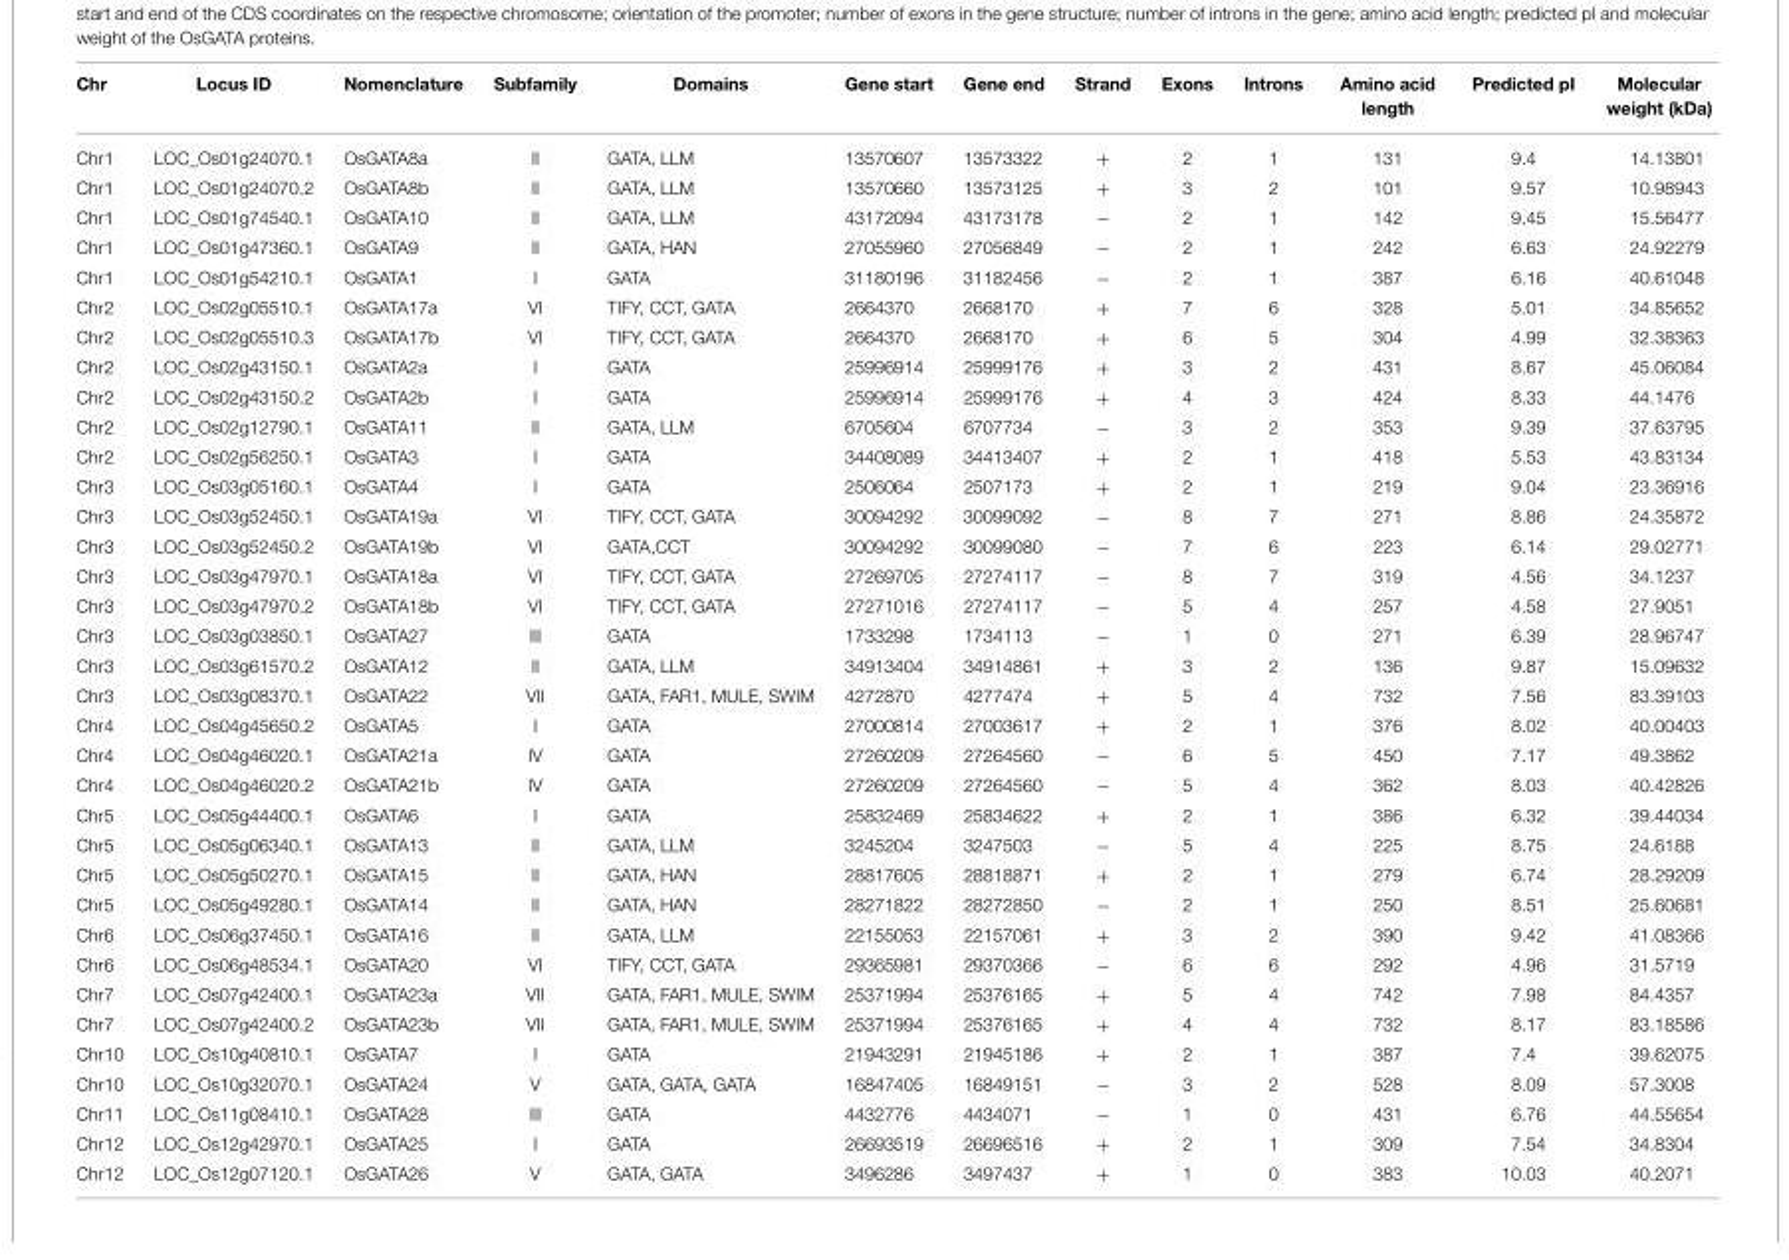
<table><thead><tr><td>Chr</td><td>Locus ID</td><td>Nomenclature</td><td>Subfamily</td><td>Domains</td><td>Gene start</td><td>Gene end</td><td>Strand</td><td>Exons</td><td>Introns</td><td>Amino acid length</td><td>Predicted pI</td><td>Molecular weight (kDa)</td></tr></thead><tbody><tr><td>Chr1</td><td>LOC_Os01g24070.1</td><td>OsGATA8a</td><td>II</td><td>GATA, LLM</td><td>13570607</td><td>13573322</td><td>+</td><td>2</td><td>1</td><td>131</td><td>9.4</td><td>14.13801</td></tr><tr><td>Chr1</td><td>LOC_Os01g24070.2</td><td>OsGATA8b</td><td>II</td><td>GATA, LLM</td><td>13570660</td><td>13573125</td><td>+</td><td>3</td><td>2</td><td>101</td><td>9.57</td><td>10.98943</td></tr><tr><td>Chr1</td><td>LOC_Os01g74540.1</td><td>OsGATA10</td><td>II</td><td>GATA, LLM</td><td>43172094</td><td>43173178</td><td>−</td><td>2</td><td>1</td><td>142</td><td>9.45</td><td>15.56477</td></tr><tr><td>Chr1</td><td>LOC_Os01g47360.1</td><td>OsGATA9</td><td>II</td><td>GATA, HAN</td><td>27055960</td><td>27056849</td><td>−</td><td>2</td><td>1</td><td>242</td><td>6.63</td><td>24.92279</td></tr><tr><td>Chr1</td><td>LOC_Os01g54210.1</td><td>OsGATA1</td><td>I</td><td>GATA</td><td>31180196</td><td>31182456</td><td>−</td><td>2</td><td>1</td><td>387</td><td>6.16</td><td>40.61048</td></tr><tr><td>Chr2</td><td>LOC_Os02g05510.1</td><td>OsGATA17a</td><td>VI</td><td>TIFY, CCT, GATA</td><td>2664370</td><td>2668170</td><td>+</td><td>7</td><td>6</td><td>328</td><td>5.01</td><td>34.85652</td></tr><tr><td>Chr2</td><td>LOC_Os02g05510.3</td><td>OsGATA17b</td><td>VI</td><td>TIFY, CCT, GATA</td><td>2664370</td><td>2668170</td><td>+</td><td>6</td><td>5</td><td>304</td><td>4.99</td><td>32.38363</td></tr><tr><td>Chr2</td><td>LOC_Os02g43150.1</td><td>OsGATA2a</td><td>I</td><td>GATA</td><td>25996914</td><td>25999176</td><td>+</td><td>3</td><td>2</td><td>431</td><td>8.67</td><td>45.06084</td></tr><tr><td>Chr2</td><td>LOC_Os02g43150.2</td><td>OsGATA2b</td><td>I</td><td>GATA</td><td>25996914</td><td>25999176</td><td>+</td><td>4</td><td>3</td><td>424</td><td>8.33</td><td>44.1476</td></tr><tr><td>Chr2</td><td>LOC_Os02g12790.1</td><td>OsGATA11</td><td>II</td><td>GATA, LLM</td><td>6705604</td><td>6707734</td><td>−</td><td>3</td><td>2</td><td>353</td><td>9.39</td><td>37.63795</td></tr><tr><td>Chr2</td><td>LOC_Os02g56250.1</td><td>OsGATA3</td><td>I</td><td>GATA</td><td>34408089</td><td>34413407</td><td>+</td><td>2</td><td>1</td><td>418</td><td>5.53</td><td>43.83134</td></tr><tr><td>Chr3</td><td>LOC_Os03g05160.1</td><td>OsGATA4</td><td>I</td><td>GATA</td><td>2506064</td><td>2507173</td><td>+</td><td>2</td><td>1</td><td>219</td><td>9.04</td><td>23.36916</td></tr><tr><td>Chr3</td><td>LOC_Os03g52450.1</td><td>OsGATA19a</td><td>VI</td><td>TIFY, CCT, GATA</td><td>30094292</td><td>30099092</td><td>−</td><td>8</td><td>7</td><td>271</td><td>8.86</td><td>24.35872</td></tr><tr><td>Chr3</td><td>LOC_Os03g52450.2</td><td>OsGATA19b</td><td>VI</td><td>GATA,CCT</td><td>30094292</td><td>30099080</td><td>−</td><td>7</td><td>6</td><td>223</td><td>6.14</td><td>29.02771</td></tr><tr><td>Chr3</td><td>LOC_Os03g47970.1</td><td>OsGATA18a</td><td>VI</td><td>TIFY, CCT, GATA</td><td>27269705</td><td>27274117</td><td>−</td><td>8</td><td>7</td><td>319</td><td>4.56</td><td>34.1237</td></tr><tr><td>Chr3</td><td>LOC_Os03g47970.2</td><td>OsGATA18b</td><td>VI</td><td>TIFY, CCT, GATA</td><td>27271016</td><td>27274117</td><td>−</td><td>5</td><td>4</td><td>257</td><td>4.58</td><td>27.9051</td></tr><tr><td>Chr3</td><td>LOC_Os03g03850.1</td><td>OsGATA27</td><td>III</td><td>GATA</td><td>1733298</td><td>1734113</td><td>−</td><td>1</td><td>0</td><td>271</td><td>6.39</td><td>28.96747</td></tr><tr><td>Chr3</td><td>LOC_Os03g61570.2</td><td>OsGATA12</td><td>II</td><td>GATA, LLM</td><td>34913404</td><td>34914861</td><td>+</td><td>3</td><td>2</td><td>136</td><td>9.87</td><td>15.09632</td></tr><tr><td>Chr3</td><td>LOC_Os03g08370.1</td><td>OsGATA22</td><td>VII</td><td>GATA, FAR1, MULE, SWIM</td><td>4272870</td><td>4277474</td><td>+</td><td>5</td><td>4</td><td>732</td><td>7.56</td><td>83.39103</td></tr><tr><td>Chr4</td><td>LOC_Os04g45650.2</td><td>OsGATA5</td><td>I</td><td>GATA</td><td>27000814</td><td>27003617</td><td>+</td><td>2</td><td>1</td><td>376</td><td>8.02</td><td>40.00403</td></tr><tr><td>Chr4</td><td>LOC_Os04g46020.1</td><td>OsGATA21a</td><td>IV</td><td>GATA</td><td>27260209</td><td>27264560</td><td>−</td><td>6</td><td>5</td><td>450</td><td>7.17</td><td>49.3862</td></tr><tr><td>Chr4</td><td>LOC_Os04g46020.2</td><td>OsGATA21b</td><td>IV</td><td>GATA</td><td>27260209</td><td>27264560</td><td>−</td><td>5</td><td>4</td><td>362</td><td>8.03</td><td>40.42826</td></tr><tr><td>Chr5</td><td>LOC_Os05g44400.1</td><td>OsGATA6</td><td>I</td><td>GATA</td><td>25832469</td><td>25834622</td><td>+</td><td>2</td><td>1</td><td>386</td><td>6.32</td><td>39.44034</td></tr><tr><td>Chr5</td><td>LOC_Os05g06340.1</td><td>OsGATA13</td><td>II</td><td>GATA, LLM</td><td>3245204</td><td>3247503</td><td>−</td><td>5</td><td>4</td><td>225</td><td>8.75</td><td>24.6188</td></tr><tr><td>Chr5</td><td>LOC_Os05g50270.1</td><td>OsGATA15</td><td>II</td><td>GATA, HAN</td><td>28817605</td><td>28818871</td><td>+</td><td>2</td><td>1</td><td>279</td><td>6.74</td><td>28.29209</td></tr><tr><td>Chr5</td><td>LOC_Os05g49280.1</td><td>OsGATA14</td><td>II</td><td>GATA, HAN</td><td>28271822</td><td>28272850</td><td>−</td><td>2</td><td>1</td><td>250</td><td>8.51</td><td>25.60681</td></tr><tr><td>Chr6</td><td>LOC_Os06g37450.1</td><td>OsGATA16</td><td>II</td><td>GATA, LLM</td><td>22155053</td><td>22157061</td><td>+</td><td>3</td><td>2</td><td>390</td><td>9.42</td><td>41.08366</td></tr><tr><td>Chr6</td><td>LOC_Os06g48534.1</td><td>OsGATA20</td><td>VI</td><td>TIFY, CCT, GATA</td><td>29365981</td><td>29370366</td><td>−</td><td>6</td><td>6</td><td>292</td><td>4.96</td><td>31.5719</td></tr><tr><td>Chr7</td><td>LOC_Os07g42400.1</td><td>OsGATA23a</td><td>VII</td><td>GATA, FAR1, MULE, SWIM</td><td>25371994</td><td>25376165</td><td>+</td><td>5</td><td>4</td><td>742</td><td>7.98</td><td>84.4357</td></tr><tr><td>Chr7</td><td>LOC_Os07g42400.2</td><td>OsGATA23b</td><td>VII</td><td>GATA, FAR1, MULE, SWIM</td><td>25371994</td><td>25376165</td><td>+</td><td>4</td><td>4</td><td>732</td><td>8.17</td><td>83.18586</td></tr><tr><td>Chr10</td><td>LOC_Os10g40810.1</td><td>OsGATA7</td><td>I</td><td>GATA</td><td>21943291</td><td>21945186</td><td>+</td><td>2</td><td>1</td><td>387</td><td>7.4</td><td>39.62075</td></tr><tr><td>Chr10</td><td>LOC_Os10g32070.1</td><td>OsGATA24</td><td>V</td><td>GATA, GATA, GATA</td><td>16847405</td><td>16849151</td><td>−</td><td>3</td><td>2</td><td>528</td><td>8.09</td><td>57.3008</td></tr><tr><td>Chr11</td><td>LOC_Os11g08410.1</td><td>OsGATA28</td><td>III</td><td>GATA</td><td>4432776</td><td>4434071</td><td>−</td><td>1</td><td>0</td><td>431</td><td>6.76</td><td>44.55654</td></tr><tr><td>Chr12</td><td>LOC_Os12g42970.1</td><td>OsGATA25</td><td>I</td><td>GATA</td><td>26693519</td><td>26696516</td><td>+</td><td>2</td><td>1</td><td>309</td><td>7.54</td><td>34.8304</td></tr><tr><td>Chr12</td><td>LOC_Os12g07120.1</td><td>OsGATA26</td><td>V</td><td>GATA, GATA</td><td>3496286</td><td>3497437</td><td>+</td><td>1</td><td>0</td><td>383</td><td>10.03</td><td>40.2071</td></tr></tbody></table>